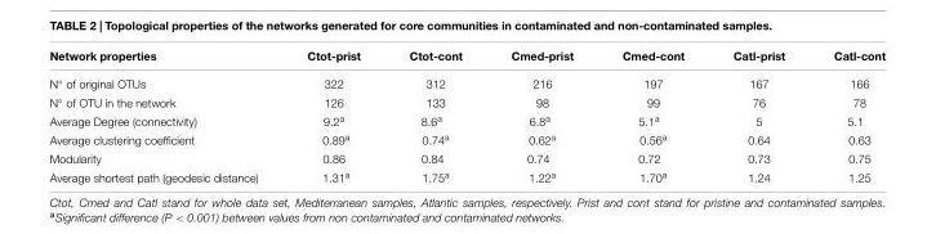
<table><thead><tr><td>Network properties</td><td>Ctot-prist</td><td>Ctot-cont</td><td>Cmed-prist</td><td>Cmed-cont</td><td>Catl-prist</td><td>Catl-cont</td></tr></thead><tbody><tr><td>N◦ of original OTUs</td><td>322</td><td>312</td><td>216</td><td>197</td><td>167</td><td>166</td></tr><tr><td>N◦ of OTU in the network</td><td>126</td><td>133</td><td>98</td><td>99</td><td>76</td><td>78</td></tr><tr><td>Average Degree (connectivity)</td><td>9.2<sup>a</sup></td><td>8.6<sup>a</sup></td><td>6.8<sup>a</sup></td><td>5.1<sup>a</sup></td><td>5</td><td>5.1</td></tr><tr><td>Average clustering coefficient</td><td>0.89<sup>a</sup></td><td>0.74<sup>a</sup></td><td>0.62<sup>a</sup></td><td>0.56<sup>a</sup></td><td>0.64</td><td>0.63</td></tr><tr><td>Modularity</td><td>0.86</td><td>0.84</td><td>0.74</td><td>0.72</td><td>0.73</td><td>0.75</td></tr><tr><td>Average shortest path (geodesic distance)</td><td>1.31<sup>a</sup></td><td>1.75<sup>a</sup></td><td>1.22<sup>a</sup></td><td>1.70<sup>a</sup></td><td>1.24</td><td>1.25</td></tr></tbody></table>